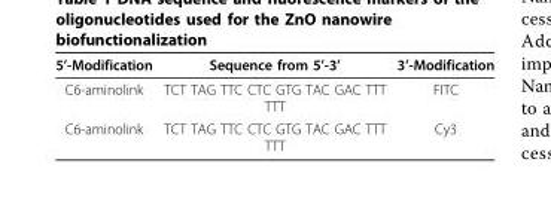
<table><thead><tr><td>5’-Modification</td><td>Sequence from 5’-3’</td><td>3’-Modification</td></tr></thead><tbody><tr><td>C6-aminolink</td><td>TCT TAG TTC CTC GTG TAC GAC TTT TTT</td><td>FITC</td></tr><tr><td>C6-aminolink</td><td>TCT TAG TTC CTC GTG TAC GAC TTT TTT</td><td>Cy3</td></tr></tbody></table>